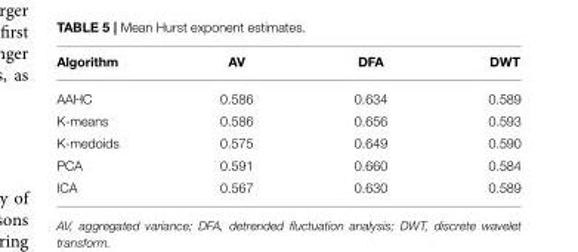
<table><thead><tr><td>Algorithm</td><td>AV</td><td>DFA</td><td>DWT</td></tr></thead><tbody><tr><td>AAHC</td><td>0.586</td><td>0.634</td><td>0.589</td></tr><tr><td>K-means</td><td>0.586</td><td>0.656</td><td>0.593</td></tr><tr><td>K-medoids</td><td>0.575</td><td>0.649</td><td>0.590</td></tr><tr><td>PCA</td><td>0.591</td><td>0.660</td><td>0.584</td></tr><tr><td>ICA</td><td>0.567</td><td>0.630</td><td>0.589</td></tr></tbody></table>